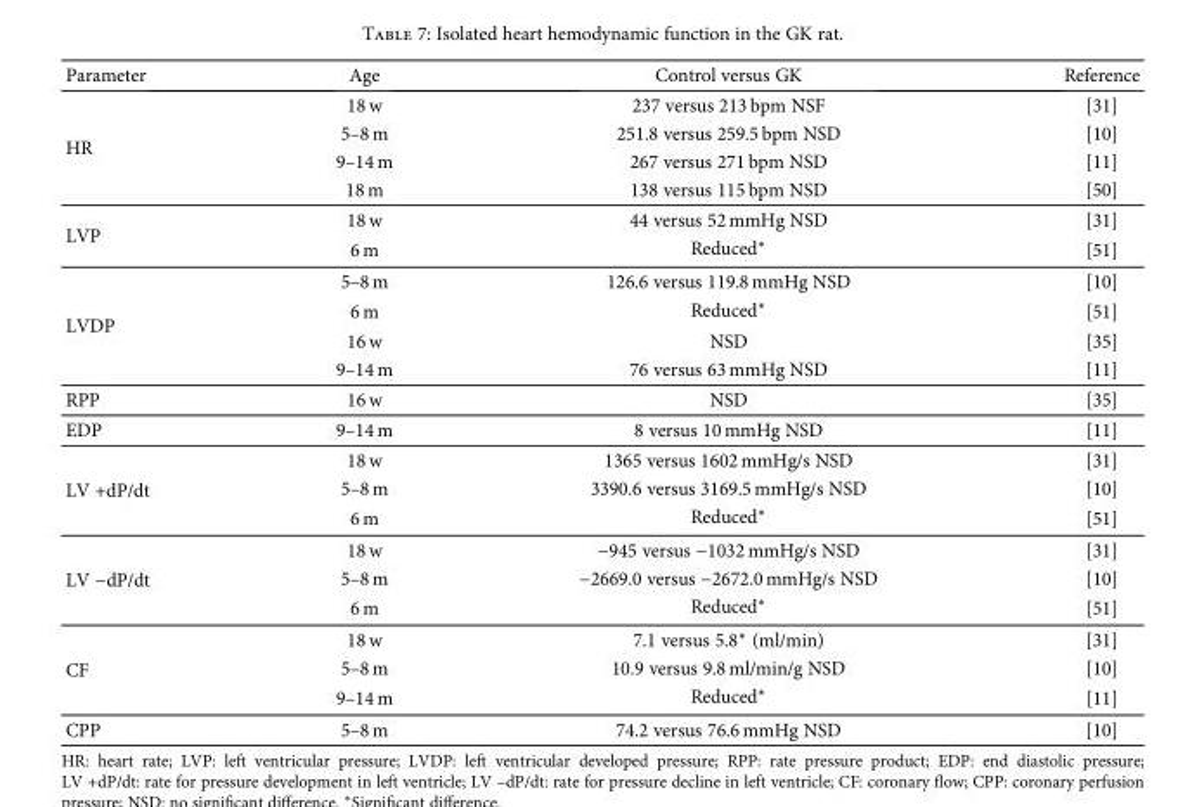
<table><thead><tr><td>Parameter</td><td>Age</td><td>Control versus GK</td><td>Reference</td></tr></thead><tbody><tr><td rowspan="4">HR</td><td>18 w</td><td>237 versus 213 bpm NSF</td><td>[31]</td></tr><tr><td>5–8 m</td><td>251.8 versus 259.5 bpm NSD</td><td>[10]</td></tr><tr><td>9–14 m</td><td>267 versus 271 bpm NSD</td><td>[11]</td></tr><tr><td>18 m</td><td>138 versus 115 bpm NSD</td><td>[50]</td></tr><tr><td rowspan="2">LVP</td><td>18 w</td><td>44 versus 52 mmHg NSD</td><td>[31]</td></tr><tr><td>6 m</td><td>Reduced∗</td><td>[51]</td></tr><tr><td rowspan="4">LVDP</td><td>5–8 m</td><td>126.6 versus 119.8 mmHg NSD</td><td>[10]</td></tr><tr><td>6 m</td><td>Reduced∗</td><td>[51]</td></tr><tr><td>16 w</td><td>NSD</td><td>[35]</td></tr><tr><td>9–14 m</td><td>76 versus 63 mmHg NSD</td><td>[11]</td></tr><tr><td>RPP</td><td>16 w</td><td>NSD</td><td>[35]</td></tr><tr><td>EDP</td><td>9–14 m</td><td>8 versus 10 mmHg NSD</td><td>[11]</td></tr><tr><td rowspan="3">LV +dP/dt</td><td>18 w</td><td>1365 versus 1602 mmHg/s NSD</td><td>[31]</td></tr><tr><td>5–8 m</td><td>3390.6 versus 3169.5 mmHg/s NSD</td><td>[10]</td></tr><tr><td>6 m</td><td>Reduced∗</td><td>[51]</td></tr><tr><td rowspan="3">LV −dP/dt</td><td>18 w</td><td>−945 versus −1032 mmHg/s NSD</td><td>[31]</td></tr><tr><td>5–8 m</td><td>−2669.0 versus −2672.0 mmHg/s NSD</td><td>[10]</td></tr><tr><td>6 m</td><td>Reduced∗</td><td>[51]</td></tr><tr><td rowspan="3">CF</td><td>18 w</td><td>7.1 versus 5.8∗ (ml/min)</td><td>[31]</td></tr><tr><td>5–8 m</td><td>10.9 versus 9.8 ml/min/g NSD</td><td>[10]</td></tr><tr><td>9–14 m</td><td>Reduced∗</td><td>[11]</td></tr><tr><td>CPP</td><td>5–8 m</td><td>74.2 versus 76.6 mmHg NSD</td><td>[10]</td></tr></tbody></table>